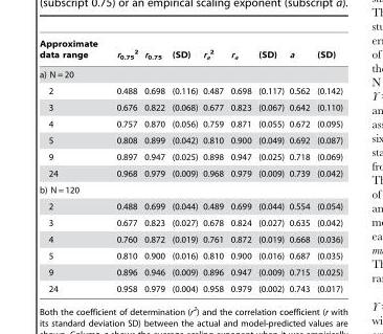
<table><thead><tr><td>Approximate data range</td><td>r<sub>0.75</sub> <sup>2</sup></td><td>r<sub>0.75</sub></td><td>(SD)</td><td>r<sub>a</sub> <sup>2</sup></td><td>r<sub>a</sub></td><td>(SD)</td><td>a</td><td>(SD)</td></tr></thead><tbody><tr><td colspan="9">a) N = 20</td></tr><tr><td>2</td><td>0.488</td><td>0.698</td><td>(0.116)</td><td>0.487</td><td>0.698</td><td>(0.117)</td><td>0.562</td><td>(0.142)</td></tr><tr><td>3</td><td>0.676</td><td>0.822</td><td>(0.068)</td><td>0.677</td><td>0.823</td><td>(0.067)</td><td>0.642</td><td>(0.110)</td></tr><tr><td>4</td><td>0.757</td><td>0.870</td><td>(0.056)</td><td>0.759</td><td>0.871</td><td>(0.055)</td><td>0.672</td><td>(0.095)</td></tr><tr><td>5</td><td>0.808</td><td>0.899</td><td>(0.042)</td><td>0.810</td><td>0.900</td><td>(0.049)</td><td>0.692</td><td>(0.087)</td></tr><tr><td>9</td><td>0.897</td><td>0.947</td><td>(0.025)</td><td>0.898</td><td>0.947</td><td>(0.025)</td><td>0.718</td><td>(0.069)</td></tr><tr><td>24</td><td>0.968</td><td>0.979</td><td>(0.009)</td><td>0.968</td><td>0.979</td><td>(0.009)</td><td>0.739</td><td>(0.042)</td></tr><tr><td colspan="9">b) N = 120</td></tr><tr><td>2</td><td>0.488</td><td>0.699</td><td>(0.044)</td><td>0.489</td><td>0.699</td><td>(0.044)</td><td>0.554</td><td>(0.054)</td></tr><tr><td>3</td><td>0.677</td><td>0.823</td><td>(0.027)</td><td>0.678</td><td>0.824</td><td>(0.027)</td><td>0.635</td><td>(0.042)</td></tr><tr><td>4</td><td>0.760</td><td>0.872</td><td>(0.019)</td><td>0.761</td><td>0.872</td><td>(0.019)</td><td>0.668</td><td>(0.036)</td></tr><tr><td>5</td><td>0.810</td><td>0.900</td><td>(0.016)</td><td>0.810</td><td>0.900</td><td>(0.016)</td><td>0.687</td><td>(0.035)</td></tr><tr><td>9</td><td>0.896</td><td>0.946</td><td>(0.009)</td><td>0.896</td><td>0.947</td><td>(0.009)</td><td>0.715</td><td>(0.025)</td></tr><tr><td>24</td><td>0.958</td><td>0.979</td><td>(0.004)</td><td>0.958</td><td>0.979</td><td>(0.002)</td><td>0.743</td><td>(0.017)</td></tr></tbody></table>